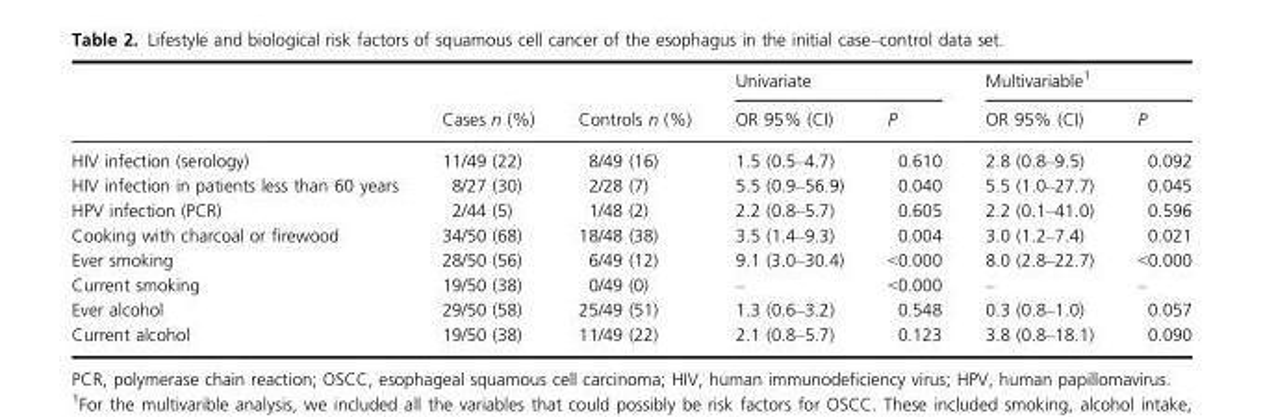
<table><thead><tr><td rowspan="2"></td><td rowspan="2">Cases n (%)</td><td rowspan="2">Controls n (%)</td><td colspan="2">Univariate</td><td colspan="2">Multivariable<sup>1</sup></td></tr><tr><td>OR 95% (CI)</td><td>P</td><td>OR 95% (CI)</td><td>P</td></tr></thead><tbody><tr><td>HIV infection (serology)</td><td>11/49 (22)</td><td>8/49 (16)</td><td>1.5 (0.5–4.7)</td><td>0.610</td><td>2.8 (0.8–9.5)</td><td>0.092</td></tr><tr><td>HIV infection in patients less than 60 years</td><td>8/27 (30)</td><td>2/28 (7)</td><td>5.5 (0.9–56.9)</td><td>0.040</td><td>5.5 (1.0–27.7)</td><td>0.045</td></tr><tr><td>HPV infection (PCR)</td><td>2/44 (5)</td><td>1/48 (2)</td><td>2.2 (0.8–5.7)</td><td>0.605</td><td>2.2 (0.1–41.0)</td><td>0.596</td></tr><tr><td>Cooking with charcoal or firewood</td><td>34/50 (68)</td><td>18/48 (38)</td><td>3.5 (1.4–9.3)</td><td>0.004</td><td>3.0 (1.2–7.4)</td><td>0.021</td></tr><tr><td>Ever smoking</td><td>28/50 (56)</td><td>6/49 (12)</td><td>9.1 (3.0–30.4)</td><td>&lt;0.000</td><td>8.0 (2.8–22.7)</td><td>&lt;0.000</td></tr><tr><td>Current smoking</td><td>19/50 (38)</td><td>0/49 (0)</td><td>–</td><td>&lt;0.000</td><td>–</td><td>–</td></tr><tr><td>Ever alcohol</td><td>29/50 (58)</td><td>25/49 (51)</td><td>1.3 (0.6–3.2)</td><td>0.548</td><td>0.3 (0.8–1.0)</td><td>0.057</td></tr><tr><td>Current alcohol</td><td>19/50 (38)</td><td>11/49 (22)</td><td>2.1 (0.8–5.7)</td><td>0.123</td><td>3.8 (0.8–18.1)</td><td>0.090</td></tr></tbody></table>